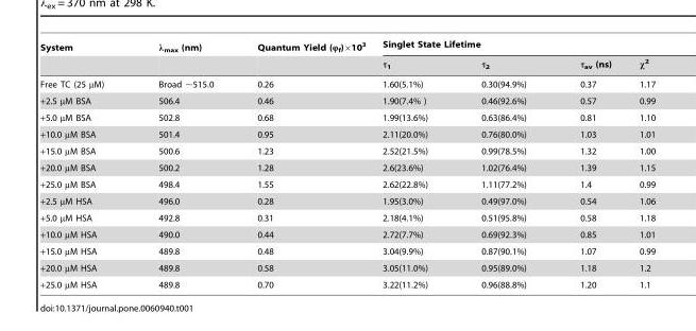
<table><thead><tr><td rowspan="2">System</td><td rowspan="2">λ<sub>max</sub> (nm)</td><td rowspan="2">Quantum Yield (φ<sub>f</sub>)×10<sup>3</sup></td><td colspan="4">Singlet State Lifetime</td></tr><tr><td>τ<sub>1</sub></td><td>τ<sub>2</sub></td><td>τ<sub>av</sub> (ns)</td><td>χ<sup>2</sup></td></tr></thead><tbody><tr><td>Free TC (25 µM)</td><td>Broad ∼515.0</td><td>0.26</td><td>1.60(5.1%)</td><td>0.30(94.9%)</td><td>0.37</td><td>1.17</td></tr><tr><td>+2.5 µM BSA</td><td>506.4</td><td>0.46</td><td>1.90(7.4% )</td><td>0.46(92.6%)</td><td>0.57</td><td>0.99</td></tr><tr><td>+5.0 µM BSA</td><td>502.8</td><td>0.68</td><td>1.99(13.6%)</td><td>0.63(86.4%)</td><td>0.81</td><td>1.10</td></tr><tr><td>+10.0 µM BSA</td><td>501.4</td><td>0.95</td><td>2.11(20.0%)</td><td>0.76(80.0%)</td><td>1.03</td><td>1.01</td></tr><tr><td>+15.0 µM BSA</td><td>500.6</td><td>1.23</td><td>2.52(21.5%)</td><td>0.99(78.5%)</td><td>1.32</td><td>1.00</td></tr><tr><td>+20.0 µM BSA</td><td>500.2</td><td>1.28</td><td>2.6(23.6%)</td><td>1.02(76.4%)</td><td>1.39</td><td>1.15</td></tr><tr><td>+25.0 µM BSA</td><td>498.4</td><td>1.55</td><td>2.62(22.8%)</td><td>1.11(77.2%)</td><td>1.4</td><td>0.99</td></tr><tr><td>+2.5 µM HSA</td><td>496.0</td><td>0.28</td><td>1.95(3.0%)</td><td>0.49(97.0%)</td><td>0.54</td><td>1.06</td></tr><tr><td>+5.0 µM HSA</td><td>492.8</td><td>0.31</td><td>2.18(4.1%)</td><td>0.51(95.8%)</td><td>0.58</td><td>1.18</td></tr><tr><td>+10.0 µM HSA</td><td>490.0</td><td>0.44</td><td>2.72(7.7%)</td><td>0.69(92.3%)</td><td>0.85</td><td>1.01</td></tr><tr><td>+15.0 µM HSA</td><td>489.8</td><td>0.48</td><td>3.04(9.9%)</td><td>0.87(90.1%)</td><td>1.07</td><td>0.99</td></tr><tr><td>+20.0 µM HSA</td><td>489.8</td><td>0.58</td><td>3.05(11.0%)</td><td>0.95(89.0%)</td><td>1.18</td><td>1.2</td></tr><tr><td>+25.0 µM HSA</td><td>489.8</td><td>0.70</td><td>3.22(11.2%)</td><td>0.96(88.8%)</td><td>1.20</td><td>1.1</td></tr></tbody></table>